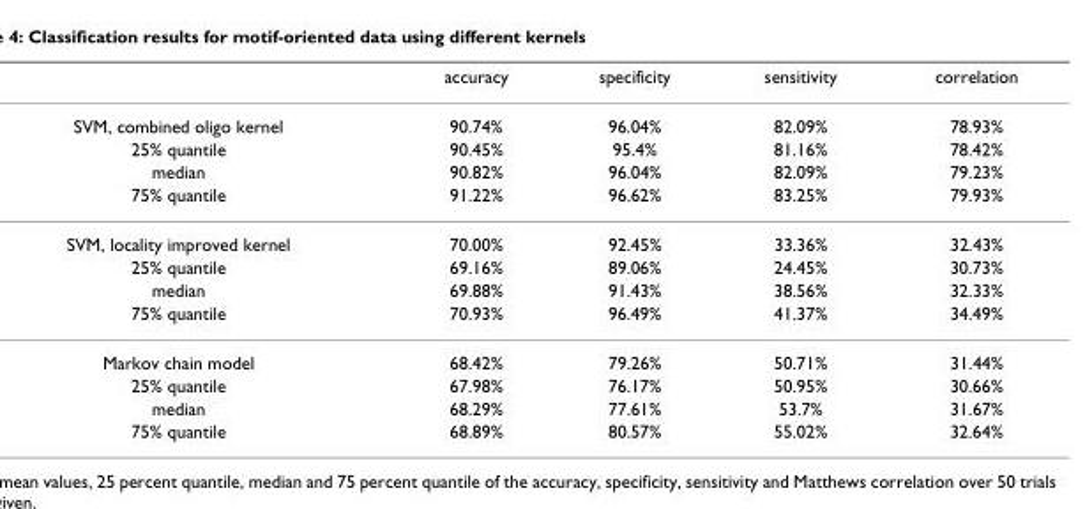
<table><thead><tr><td></td><td>accuracy</td><td>specificity</td><td>sensitivity</td><td>correlation</td></tr></thead><tbody><tr><td>SVM, combined oligo kernel</td><td>90.74%</td><td>96.04%</td><td>82.09%</td><td>78.93%</td></tr><tr><td>25% quantile</td><td>90.45%</td><td>95.4%</td><td>81.16%</td><td>78.42%</td></tr><tr><td>median</td><td>90.82%</td><td>96.04%</td><td>82.09%</td><td>79.23%</td></tr><tr><td>75% quantile</td><td>91.22%</td><td>96.62%</td><td>83.25%</td><td>79.93%</td></tr><tr><td>SVM, locality improved kernel</td><td>70.00%</td><td>92.45%</td><td>33.36%</td><td>32.43%</td></tr><tr><td>25% quantile</td><td>69.16%</td><td>89.06%</td><td>24.45%</td><td>30.73%</td></tr><tr><td>median</td><td>69.88%</td><td>91.43%</td><td>38.56%</td><td>32.33%</td></tr><tr><td>75% quantile</td><td>70.93%</td><td>96.49%</td><td>41.37%</td><td>34.49%</td></tr><tr><td>Markov chain model</td><td>68.42%</td><td>79.26%</td><td>50.71%</td><td>31.44%</td></tr><tr><td>25% quantile</td><td>67.98%</td><td>76.17%</td><td>50.95%</td><td>30.66%</td></tr><tr><td>median</td><td>68.29%</td><td>77.61%</td><td>53.7%</td><td>31.67%</td></tr><tr><td>75% quantile</td><td>68.89%</td><td>80.57%</td><td>55.02%</td><td>32.64%</td></tr></tbody></table>